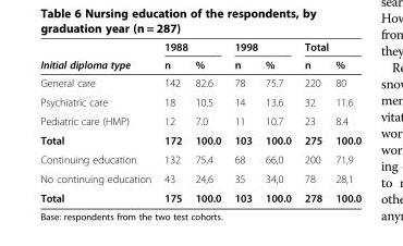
<table><thead><tr><td rowspan="2">Initial diploma type</td><td colspan="2">1988</td><td colspan="2">1998</td><td colspan="2">Total</td></tr><tr><td>n</td><td>%</td><td>n</td><td>%</td><td>n</td><td>%</td></tr></thead><tbody><tr><td>General care</td><td>142</td><td>82.6</td><td>78</td><td>75.7</td><td>220</td><td>80</td></tr><tr><td>Psychiatric care</td><td>18</td><td>10.5</td><td>14</td><td>13.6</td><td>32</td><td>11.6</td></tr><tr><td>Pediatric care (HMP)</td><td>12</td><td>7.0</td><td>11</td><td>10.7</td><td>23</td><td>8.4</td></tr><tr><td>Total</td><td>172</td><td>100.0</td><td>103</td><td>100.0</td><td>275</td><td>100.0</td></tr><tr><td>Continuing education</td><td>132</td><td>75,4</td><td>68</td><td>66,0</td><td>200</td><td>71,9</td></tr><tr><td>No continuing education</td><td>43</td><td>24,6</td><td>35</td><td>34,0</td><td>78</td><td>28,1</td></tr><tr><td>Total</td><td>175</td><td>100.0</td><td>103</td><td>100.0</td><td>278</td><td>100.0</td></tr></tbody></table>